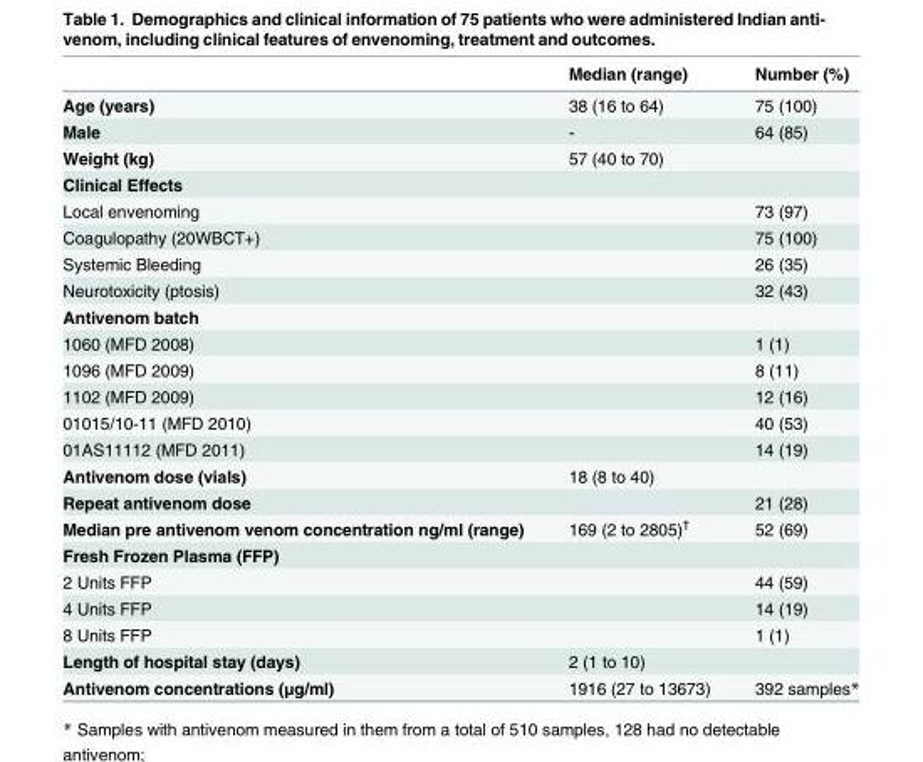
<table><thead><tr><td></td><td>Median (range)</td><td>Number (%)</td></tr></thead><tbody><tr><td>Age (years)</td><td>38 (16 to 64)</td><td>75 (100)</td></tr><tr><td>Male</td><td>-</td><td>64 (85)</td></tr><tr><td>Weight (kg)</td><td>57 (40 to 70)</td><td></td></tr><tr><td colspan="3">Clinical Effects</td></tr><tr><td>Local envenoming</td><td></td><td>73 (97)</td></tr><tr><td>Coagulopathy (20WBCT+)</td><td></td><td>75 (100)</td></tr><tr><td>Systemic Bleeding</td><td></td><td>26 (35)</td></tr><tr><td>Neurotoxicity (ptosis)</td><td></td><td>32 (43)</td></tr><tr><td colspan="3">Antivenom batch</td></tr><tr><td>1060 (MFD 2008)</td><td></td><td>1 (1)</td></tr><tr><td>1096 (MFD 2009)</td><td></td><td>8 (11)</td></tr><tr><td>1102 (MFD 2009)</td><td></td><td>12 (16)</td></tr><tr><td>01015/10-11 (MFD 2010)</td><td></td><td>40 (53)</td></tr><tr><td>01AS11112 (MFD 2011)</td><td></td><td>14 (19)</td></tr><tr><td>Antivenom dose (vials)</td><td>18 (8 to 40)</td><td></td></tr><tr><td>Repeat antivenom dose</td><td></td><td>21 (28)</td></tr><tr><td>Median pre antivenom venom concentration ng/ml (range)</td><td>169 (2 to 2805)<sup>†</sup></td><td>52 (69)</td></tr><tr><td colspan="3">Fresh Frozen Plasma (FFP)</td></tr><tr><td>2 Units FFP</td><td></td><td>44 (59)</td></tr><tr><td>4 Units FFP</td><td></td><td>14 (19)</td></tr><tr><td>8 Units FFP</td><td></td><td>1 (1)</td></tr><tr><td>Length of hospital stay (days)</td><td>2 (1 to 10)</td><td></td></tr><tr><td>Antivenom concentrations (μg/ml)</td><td>1916 (27 to 13673)</td><td>392 samples*</td></tr></tbody></table>